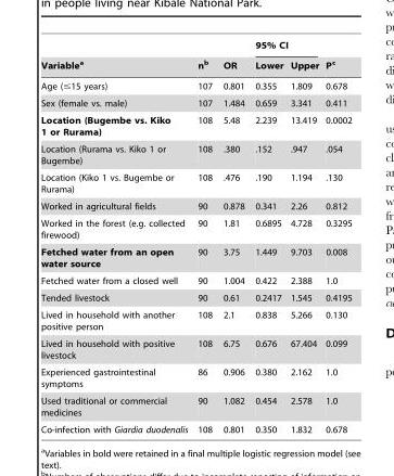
<table><thead><tr><td rowspan="2">Variable<sup>a</sup></td><td rowspan="2">n<sup>b</sup></td><td rowspan="2">OR</td><td colspan="2">95% CI</td><td rowspan="2">P<sup>c</sup></td></tr><tr><td>Lower</td><td>Upper</td></tr></thead><tbody><tr><td>Age (≤15 years)</td><td>107</td><td>0.801</td><td>0.355</td><td>1.809</td><td>0.678</td></tr><tr><td>Sex (female vs. male)</td><td>107</td><td>1.484</td><td>0.659</td><td>3.341</td><td>0.411</td></tr><tr><td>Location (Bugembe vs. Kiko 1 or Rurama)</td><td>108</td><td>5.48</td><td>2.239</td><td>13.419</td><td>0.0002</td></tr><tr><td>Location (Rurama vs. Kiko 1 or Bugembe)</td><td>108</td><td>.380</td><td>.152</td><td>.947</td><td>.054</td></tr><tr><td>Location (Kiko 1 vs. Bugembe or Rurama)</td><td>108</td><td>.476</td><td>.190</td><td>1.194</td><td>.130</td></tr><tr><td>Worked in agricultural fields</td><td>90</td><td>0.878</td><td>0.341</td><td>2.26</td><td>0.812</td></tr><tr><td>Worked in the forest (e.g. collected firewood)</td><td>90</td><td>1.81</td><td>0.6895</td><td>4.728</td><td>0.3295</td></tr><tr><td>Fetched water from an open water source</td><td>90</td><td>3.75</td><td>1.449</td><td>9.703</td><td>0.008</td></tr><tr><td>Fetched water from a closed well</td><td>90</td><td>1.004</td><td>0.422</td><td>2.388</td><td>1.0</td></tr><tr><td>Tended livestock</td><td>90</td><td>0.61</td><td>0.2417</td><td>1.545</td><td>0.4195</td></tr><tr><td>Lived in household with another positive person</td><td>108</td><td>2.1</td><td>0.838</td><td>5.266</td><td>0.130</td></tr><tr><td>Lived in household with positive livestock</td><td>108</td><td>6.75</td><td>0.676</td><td>67.404</td><td>0.099</td></tr><tr><td>Experienced gastrointestinal symptoms</td><td>86</td><td>0.906</td><td>0.380</td><td>2.162</td><td>1.0</td></tr><tr><td>Used traditional or commercial medicines</td><td>90</td><td>1.082</td><td>0.454</td><td>2.578</td><td>1.0</td></tr><tr><td>Co-infection with Giardia duodenalis</td><td>108</td><td>0.801</td><td>0.350</td><td>1.832</td><td>0.678</td></tr></tbody></table>